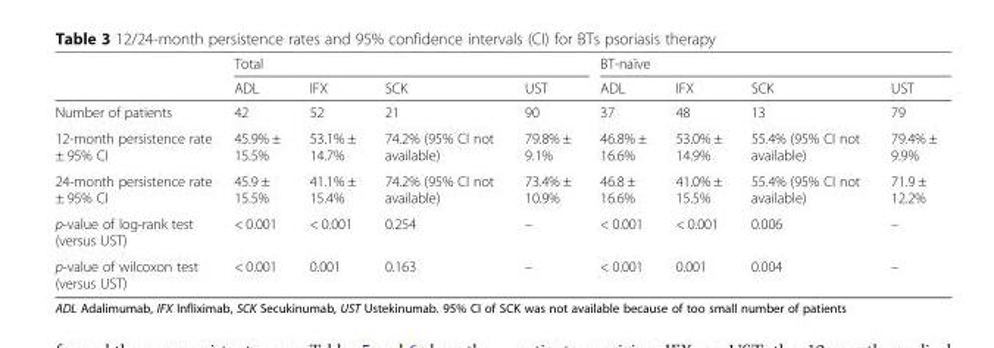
<table><thead><tr><td rowspan="2"></td><td colspan="4">Total</td><td colspan="4">BT-naïve</td></tr><tr><td>ADL</td><td>IFX</td><td>SCK</td><td>UST</td><td>ADL</td><td>IFX</td><td>SCK</td><td>UST</td></tr></thead><tbody><tr><td>Number of patients</td><td>42</td><td>52</td><td>21</td><td>90</td><td>37</td><td>48</td><td>13</td><td>79</td></tr><tr><td>12-month persistence rate ± 95% CI</td><td>45.9% ± 15.5%</td><td>53.1% ± 14.7%</td><td>74.2% (95% CI not available)</td><td>79.8% ± 9.1%</td><td>46.8% ± 16.6%</td><td>53.0% ± 14.9%</td><td>55.4% (95% CI not available)</td><td>79.4% ± 9.9%</td></tr><tr><td>24-month persistence rate ± 95% CI</td><td>45.9 ± 15.5%</td><td>41.1% ± 15.4%</td><td>74.2% (95% CI not available)</td><td>73.4% ± 10.9%</td><td>46.8 ± 16.6%</td><td>41.0% ± 15.5%</td><td>55.4% (95% CI not available)</td><td>71.9 ± 12.2%</td></tr><tr><td>p-value of log-rank test (versus UST)</td><td>&lt; 0.001</td><td>&lt; 0.001</td><td>0.254</td><td>–</td><td>&lt; 0.001</td><td>&lt; 0.001</td><td>0.006</td><td>–</td></tr><tr><td>p-value of wilcoxon test (versus UST)</td><td>&lt; 0.001</td><td>0.001</td><td>0.163</td><td>–</td><td>&lt; 0.001</td><td>0.001</td><td>0.004</td><td>–</td></tr></tbody></table>